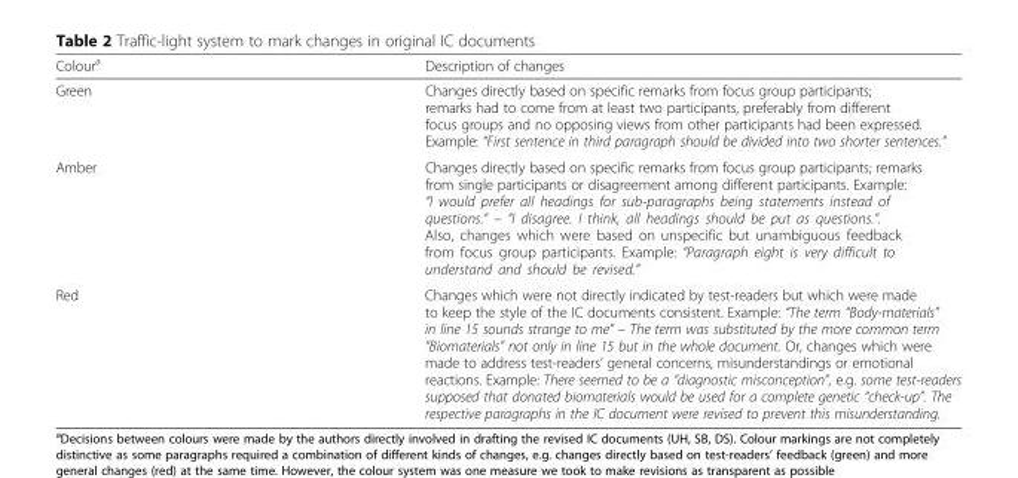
<table><thead><tr><td>Colour<sup>a</sup></td><td>Description of changes</td></tr></thead><tbody><tr><td>Green</td><td>Changes directly based on specific remarks from focus group participants; remarks had to come from at least two participants, preferably from different focus groups and no opposing views from other participants had been expressed. Example: “First sentence in third paragraph should be divided into two shorter sentences.”</td></tr><tr><td>Amber</td><td>Changes directly based on specific remarks from focus group participants; remarks from single participants or disagreement among different participants. Example: “I would prefer all headings for sub-paragraphs being statements instead of questions.” – “I disagree. I think, all headings should be put as questions.”. Also, changes which were based on unspecific but unambiguous feedback from focus group participants. Example: “Paragraph eight is very difficult to understand and should be revised.”</td></tr><tr><td>Red</td><td>Changes which were not directly indicated by test-readers but which were made to keep the style of the IC documents consistent. Example: “The term “Body-materials” in line 15 sounds strange to me” – The term was substituted by the more common term “Biomaterials” not only in line 15 but in the whole document. Or, changes which were made to address test-readers’ general concerns, misunderstandings or emotional reactions. Example: There seemed to be a “diagnostic misconception”, e.g. some test-readers supposed that donated biomaterials would be used for a complete genetic “check-up”. The respective paragraphs in the IC document were revised to prevent this misunderstanding.</td></tr></tbody></table>